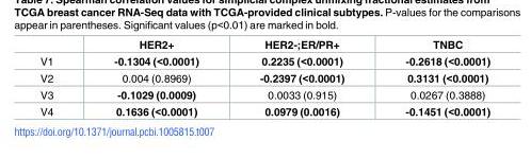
<table><thead><tr><td></td><td>HER2+</td><td>HER2-;ER/PR+</td><td>TNBC</td></tr></thead><tbody><tr><td>V1</td><td>-0.1304 (&lt;0.0001)</td><td>0.2235 (&lt;0.0001)</td><td>-0.2618 (&lt;0.0001)</td></tr><tr><td>V2</td><td>0.004 (0.8969)</td><td>-0.2397 (&lt;0.0001)</td><td>0.3131 (&lt;0.0001)</td></tr><tr><td>V3</td><td>-0.1029 (0.0009)</td><td>0.0033 (0.915)</td><td>0.0267 (0.3888)</td></tr><tr><td>V4</td><td>0.1636 (&lt;0.0001)</td><td>0.0979 (0.0016)</td><td>-0.1451 (&lt;0.0001)</td></tr></tbody></table>